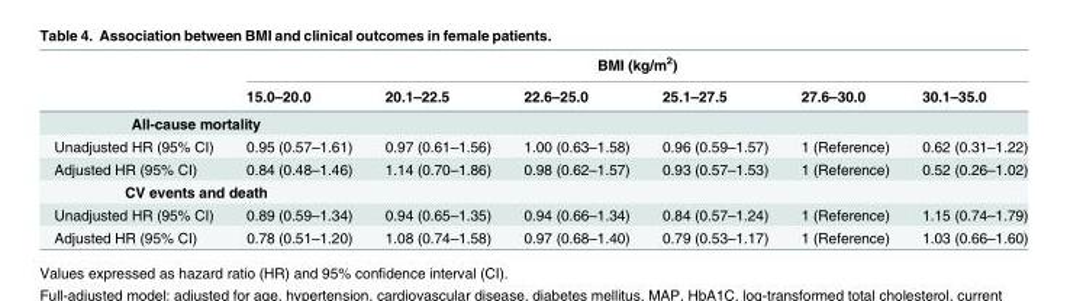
<table><thead><tr><td rowspan="2"></td><td colspan="6">BMI (kg/m<sup>2</sup>)</td></tr><tr><td>15.0–20.0</td><td>20.1–22.5</td><td>22.6–25.0</td><td>25.1–27.5</td><td>27.6–30.0</td><td>30.1–35.0</td></tr></thead><tbody><tr><td colspan="7">All-cause mortality</td></tr><tr><td>Unadjusted HR (95% CI)</td><td>0.95 (0.57–1.61)</td><td>0.97 (0.61–1.56)</td><td>1.00 (0.63–1.58)</td><td>0.96 (0.59–1.57)</td><td>1 (Reference)</td><td>0.62 (0.31–1.22)</td></tr><tr><td>Adjusted HR (95% CI)</td><td>0.84 (0.48–1.46)</td><td>1.14 (0.70–1.86)</td><td>0.98 (0.62–1.57)</td><td>0.93 (0.57–1.53)</td><td>1 (Reference)</td><td>0.52 (0.26–1.02)</td></tr><tr><td colspan="7">CV events and death</td></tr><tr><td>Unadjusted HR (95% CI)</td><td>0.89 (0.59–1.34)</td><td>0.94 (0.65–1.35)</td><td>0.94 (0.66–1.34)</td><td>0.84 (0.57–1.24)</td><td>1 (Reference)</td><td>1.15 (0.74–1.79)</td></tr><tr><td>Adjusted HR (95% CI)</td><td>0.78 (0.51–1.20)</td><td>1.08 (0.74–1.58)</td><td>0.97 (0.68–1.40)</td><td>0.79 (0.53–1.17)</td><td>1 (Reference)</td><td>1.03 (0.66–1.60)</td></tr></tbody></table>